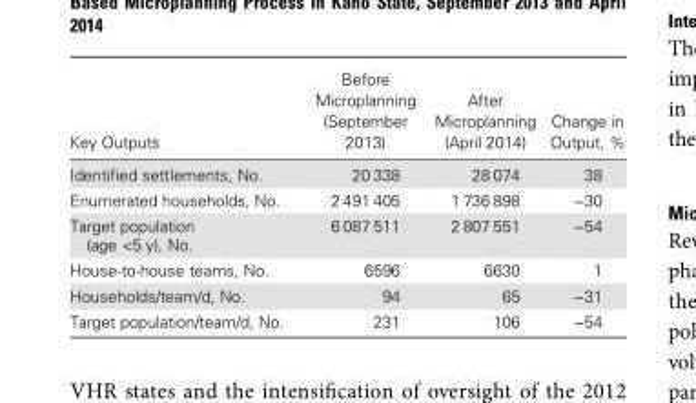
<table><thead><tr><td>Key Outputs</td><td>Before Microplanning (September 2013)</td><td>After Microplanning (April 2014)</td><td>Change in Output, %</td></tr></thead><tbody><tr><td>Identified settlements, No.</td><td>20 338</td><td>28 074</td><td>38</td></tr><tr><td>Enumerated households, No.</td><td>2 491 405</td><td>1 736 898</td><td>−30</td></tr><tr><td>Target population (age &lt;5 y), No.</td><td>6 087 511</td><td>2 807 551</td><td>−54</td></tr><tr><td>House-to-house teams, No.</td><td>6596</td><td>6630</td><td>1</td></tr><tr><td>Households/team/d, No.</td><td>94</td><td>65</td><td>−31</td></tr><tr><td>Target population/team/d, No.</td><td>231</td><td>106</td><td>−54</td></tr></tbody></table>